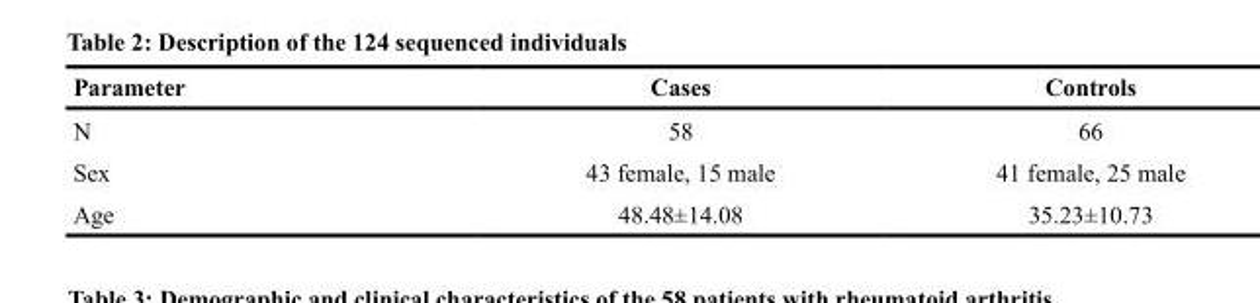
<table><thead><tr><td>Parameter</td><td>Cases</td><td>Controls</td></tr></thead><tbody><tr><td>N</td><td>58</td><td>66</td></tr><tr><td>Sex</td><td>43 female, 15 male</td><td>41 female, 25 male</td></tr><tr><td>Age</td><td>48.48±14.08</td><td>35.23±10.73</td></tr></tbody></table>